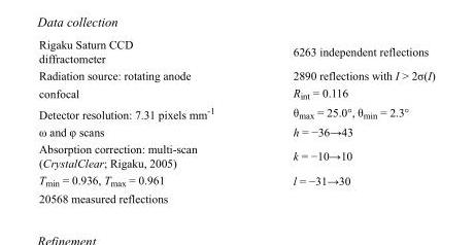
<table><tbody><tr><td>Rigaku Saturn CCD diffractometer</td><td>6263 independent reflections</td></tr><tr><td>Radiation source: rotating anode</td><td>2890 reflections with I &gt; 2σ(I)</td></tr><tr><td>confocal</td><td>R<sub>int</sub> = 0.116</td></tr><tr><td>Detector resolution: 7.31 pixels mm<sup>-1</sup></td><td>θ<sub>max</sub> = 25.0°, θ<sub>min</sub> = 2.3°</td></tr><tr><td>ω and φ scans</td><td>h = −36→43</td></tr><tr><td>Absorption correction: multi-scan (CrystalClear; Rigaku, 2005)</td><td>k = −10→10</td></tr><tr><td>T<sub>min</sub> = 0.936, T<sub>max</sub> = 0.961</td><td>l = −31→30</td></tr><tr><td>20568 measured reflections</td><td></td></tr></tbody></table>